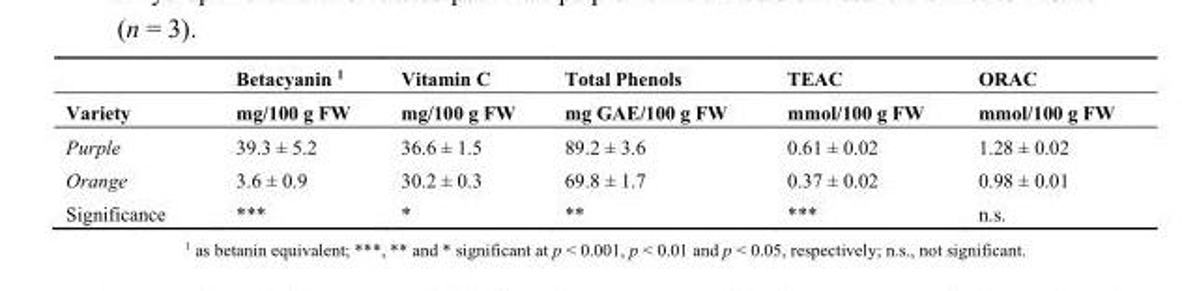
<table><thead><tr><td rowspan="2">Variety</td><td rowspan="2">Betacyanin <sup>1</sup> mg/100 g FW</td><td rowspan="2">Vitamin C mg/100 g FW</td><td rowspan="2">Total Phenols mg GAE/100 g FW</td><td rowspan="2">TEAC mmol/100 g FW</td><td rowspan="2">ORAC mmol/100 g FW</td></tr><tr></tr></thead><tbody><tr><td>Purple</td><td>39.3 ± 5.2</td><td>36.6 ± 1.5</td><td>89.2 ± 3.6</td><td>0.61 ± 0.02</td><td>1.28 ± 0.02</td></tr><tr><td>Orange</td><td>3.6 ± 0.9</td><td>30.2 ± 0.3</td><td>69.8 ± 1.7</td><td>0.37 ± 0.02</td><td>0.98 ± 0.01</td></tr><tr><td>Significance</td><td>***</td><td>*</td><td>**</td><td>***</td><td>n.s.</td></tr></tbody></table>